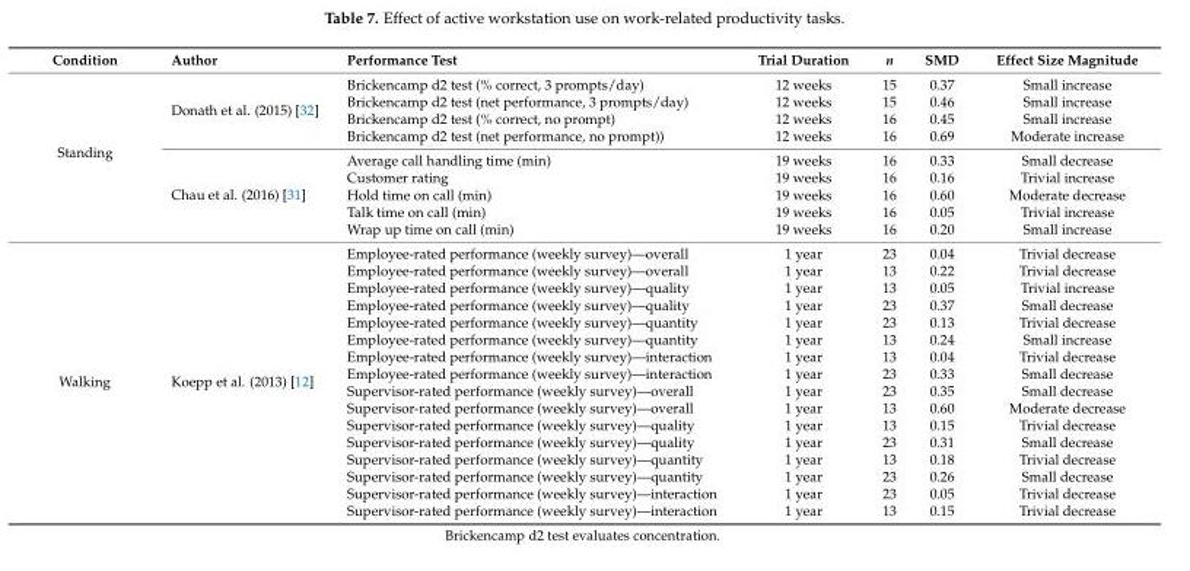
<table><thead><tr><td>Condition</td><td>Author</td><td>Performance Test</td><td>Trial Duration</td><td>n</td><td>SMD</td><td>Effect Size Magnitude</td></tr></thead><tbody><tr><td rowspan="9">Standing</td><td rowspan="4">Donath et al. (2015) [32]</td><td>Brickencamp d2 test (% correct, 3 prompts/day)</td><td>12 weeks</td><td>15</td><td>0.37</td><td>Small increase</td></tr><tr><td>Brickencamp d2 test (net performance, 3 prompts/day)</td><td>12 weeks</td><td>15</td><td>0.46</td><td>Small increase</td></tr><tr><td>Brickencamp d2 test (% correct, no prompt)</td><td>12 weeks</td><td>16</td><td>0.45</td><td>Small increase</td></tr><tr><td>Brickencamp d2 test (net performance, no prompt))</td><td>12 weeks</td><td>16</td><td>0.69</td><td>Moderate increase</td></tr><tr><td rowspan="5">Chau et al. (2016) [31]</td><td>Average call handling time (min)</td><td>19 weeks</td><td>16</td><td>0.33</td><td>Small decrease</td></tr><tr><td>Customer rating</td><td>19 weeks</td><td>16</td><td>0.16</td><td>Trivial increase</td></tr><tr><td>Hold time on call (min)</td><td>19 weeks</td><td>16</td><td>0.60</td><td>Moderate decrease</td></tr><tr><td>Talk time on call (min)</td><td>19 weeks</td><td>16</td><td>0.05</td><td>Trivial increase</td></tr><tr><td>Wrap up time on call (min)</td><td>19 weeks</td><td>16</td><td>0.20</td><td>Small increase</td></tr><tr><td rowspan="16">Walking</td><td rowspan="16">Koepp et al. (2013) [12]</td><td>Employee-rated performance (weekly survey)—overall</td><td>1 year</td><td>23</td><td>0.04</td><td>Trivial decrease</td></tr><tr><td>Employee-rated performance (weekly survey)—overall</td><td>1 year</td><td>13</td><td>0.22</td><td>Trivial decrease</td></tr><tr><td>Employee-rated performance (weekly survey)—quality</td><td>1 year</td><td>13</td><td>0.05</td><td>Trivial increase</td></tr><tr><td>Employee-rated performance (weekly survey)—quality</td><td>1 year</td><td>23</td><td>0.37</td><td>Small decrease</td></tr><tr><td>Employee-rated performance (weekly survey)—quantity</td><td>1 year</td><td>23</td><td>0.13</td><td>Trivial decrease</td></tr><tr><td>Employee-rated performance (weekly survey)—quantity</td><td>1 year</td><td>13</td><td>0.24</td><td>Small increase</td></tr><tr><td>Employee-rated performance (weekly survey)—interaction</td><td>1 year</td><td>13</td><td>0.04</td><td>Trivial decrease</td></tr><tr><td>Employee-rated performance (weekly survey)—interaction</td><td>1 year</td><td>23</td><td>0.33</td><td>Small decrease</td></tr><tr><td>Supervisor-rated performance (weekly survey)—overall</td><td>1 year</td><td>23</td><td>0.35</td><td>Small decrease</td></tr><tr><td>Supervisor-rated performance (weekly survey)—overall</td><td>1 year</td><td>13</td><td>0.60</td><td>Moderate decrease</td></tr><tr><td>Supervisor-rated performance (weekly survey)—quality</td><td>1 year</td><td>13</td><td>0.15</td><td>Trivial decrease</td></tr><tr><td>Supervisor-rated performance (weekly survey)—quality</td><td>1 year</td><td>23</td><td>0.31</td><td>Small decrease</td></tr><tr><td>Supervisor-rated performance (weekly survey)—quantity</td><td>1 year</td><td>13</td><td>0.18</td><td>Trivial decrease</td></tr><tr><td>Supervisor-rated performance (weekly survey)—quantity</td><td>1 year</td><td>23</td><td>0.26</td><td>Small decrease</td></tr><tr><td>Supervisor-rated performance (weekly survey)—interaction</td><td>1 year</td><td>23</td><td>0.05</td><td>Trivial decrease</td></tr><tr><td>Supervisor-rated performance (weekly survey)—interaction</td><td>1 year</td><td>13</td><td>0.15</td><td>Trivial decrease</td></tr></tbody></table>